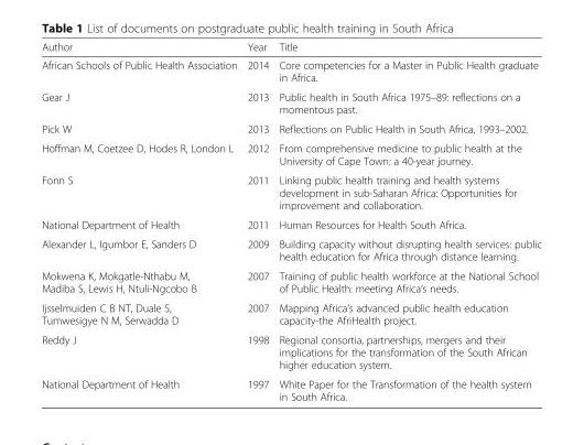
<table><thead><tr><td>Author</td><td>Year</td><td>Title</td></tr></thead><tbody><tr><td>African Schools of Public Health Association</td><td>2014</td><td>Core competencies for a Master in Public Health graduate in Africa.</td></tr><tr><td>Gear J</td><td>2013</td><td>Public health in South Africa 1975–89: reflections on a momentous past.</td></tr><tr><td>Pick W</td><td>2013</td><td>Reflections on Public Health in South Africa, 1993–2002.</td></tr><tr><td>Hoffman M, Coetzee D, Hodes R, London L</td><td>2012</td><td>From comprehensive medicine to public health at the University of Cape Town: a 40-year journey.</td></tr><tr><td>Fonn S</td><td>2011</td><td>Linking public health training and health systems development in sub-Saharan Africa: Opportunities for improvement and collaboration.</td></tr><tr><td>National Department of Health</td><td>2011</td><td>Human Resources for Health South Africa.</td></tr><tr><td>Alexander L, Igumbor E, Sanders D</td><td>2009</td><td>Building capacity without disrupting health services: public health education for Africa through distance learning.</td></tr><tr><td>Mokwena K, Mokgatle-Nthabu M, Madiba S, Lewis H, Ntuli-Ngcobo B</td><td>2007</td><td>Training of public health workforce at the National School of Public Health: meeting Africa’s needs.</td></tr><tr><td>Ijsselmuiden C B NT, Duale S, Tumwesigye N M, Serwadda D</td><td>2007</td><td>Mapping Africa’s advanced public health education capacity-the AfriHealth project.</td></tr><tr><td>Reddy J</td><td>1998</td><td>Regional consortia, partnerships, mergers and their implications for the transformation of the South African higher education system.</td></tr><tr><td>National Department of Health</td><td>1997</td><td>White Paper for the Transformation of the health system in South Africa.</td></tr></tbody></table>